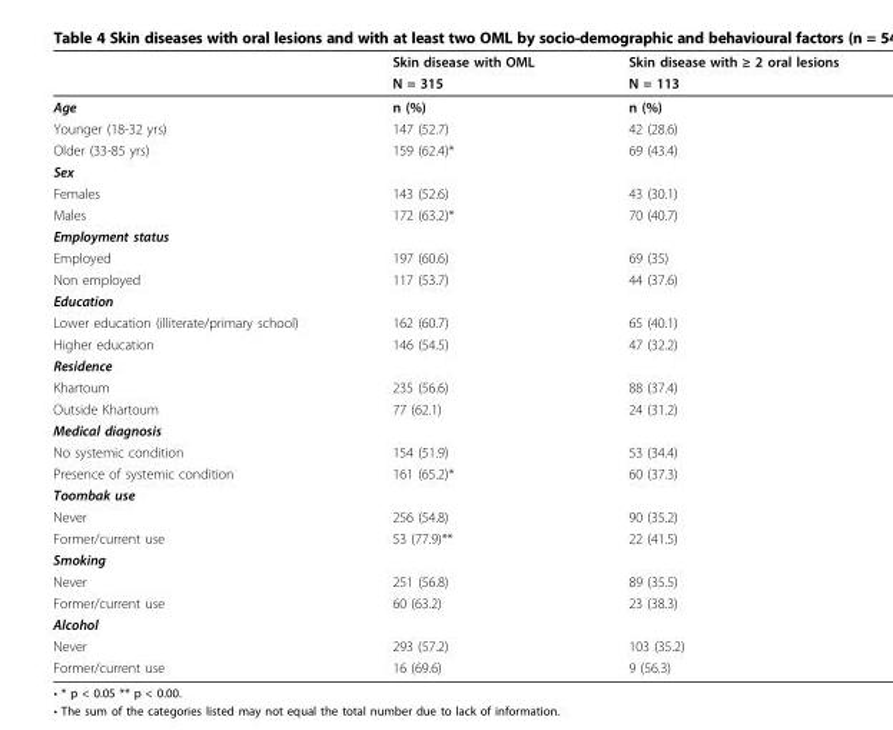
<table><thead><tr><td rowspan="2"></td><td rowspan="2">Skin disease with OML N = 315</td><td rowspan="2">Skin disease with ≥ 2 oral lesions N = 113</td></tr><tr></tr></thead><tbody><tr><td>Age</td><td>n (%)</td><td>n (%)</td></tr><tr><td>Younger (18-32 yrs)</td><td>147 (52.7)</td><td>42 (28.6)</td></tr><tr><td>Older (33-85 yrs)</td><td>159 (62.4)*</td><td>69 (43.4)</td></tr><tr><td colspan="3">Sex</td></tr><tr><td>Females</td><td>143 (52.6)</td><td>43 (30.1)</td></tr><tr><td>Males</td><td>172 (63.2)*</td><td>70 (40.7)</td></tr><tr><td colspan="3">Employment status</td></tr><tr><td>Employed</td><td>197 (60.6)</td><td>69 (35)</td></tr><tr><td>Non employed</td><td>117 (53.7)</td><td>44 (37.6)</td></tr><tr><td colspan="3">Education</td></tr><tr><td>Lower education (illiterate/primary school)</td><td>162 (60.7)</td><td>65 (40.1)</td></tr><tr><td>Higher education</td><td>146 (54.5)</td><td>47 (32.2)</td></tr><tr><td colspan="3">Residence</td></tr><tr><td>Khartoum</td><td>235 (56.6)</td><td>88 (37.4)</td></tr><tr><td>Outside Khartoum</td><td>77 (62.1)</td><td>24 (31.2)</td></tr><tr><td colspan="3">Medical diagnosis</td></tr><tr><td>No systemic condition</td><td>154 (51.9)</td><td>53 (34.4)</td></tr><tr><td>Presence of systemic condition</td><td>161 (65.2)*</td><td>60 (37.3)</td></tr><tr><td colspan="3">Toombak use</td></tr><tr><td>Never</td><td>256 (54.8)</td><td>90 (35.2)</td></tr><tr><td>Former/current use</td><td>53 (77.9)**</td><td>22 (41.5)</td></tr><tr><td colspan="3">Smoking</td></tr><tr><td>Never</td><td>251 (56.8)</td><td>89 (35.5)</td></tr><tr><td>Former/current use</td><td>60 (63.2)</td><td>23 (38.3)</td></tr><tr><td colspan="3">Alcohol</td></tr><tr><td>Never</td><td>293 (57.2)</td><td>103 (35.2)</td></tr><tr><td>Former/current use</td><td>16 (69.6)</td><td>9 (56.3)</td></tr></tbody></table>